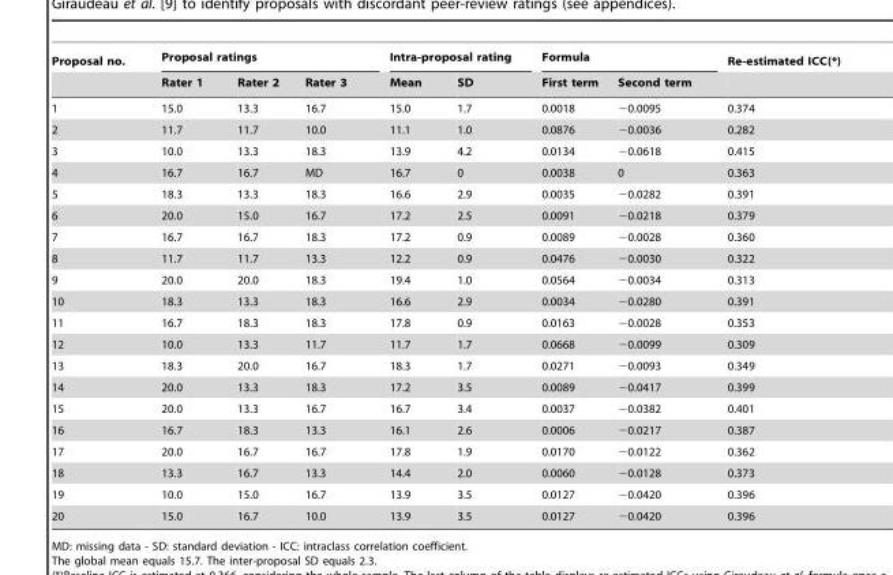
<table><thead><tr><td rowspan="2">Proposal no.</td><td colspan="3">Proposal ratings</td><td colspan="2">Intra-proposal rating</td><td colspan="2">Formula</td><td rowspan="2">Re-estimated ICC(*)</td></tr><tr><td>Rater 1</td><td>Rater 2</td><td>Rater 3</td><td>Mean</td><td>SD</td><td>First term</td><td>Second term</td></tr></thead><tbody><tr><td>1</td><td>15.0</td><td>13.3</td><td>16.7</td><td>15.0</td><td>1.7</td><td>0.0018</td><td>−0.0095</td><td>0.374</td></tr><tr><td>2</td><td>11.7</td><td>11.7</td><td>10.0</td><td>11.1</td><td>1.0</td><td>0.0876</td><td>−0.0036</td><td>0.282</td></tr><tr><td>3</td><td>10.0</td><td>13.3</td><td>18.3</td><td>13.9</td><td>4.2</td><td>0.0134</td><td>−0.0618</td><td>0.415</td></tr><tr><td>4</td><td>16.7</td><td>16.7</td><td>MD</td><td>16.7</td><td>0</td><td>0.0038</td><td>0</td><td>0.363</td></tr><tr><td>5</td><td>18.3</td><td>13.3</td><td>18.3</td><td>16.6</td><td>2.9</td><td>0.0035</td><td>−0.0282</td><td>0.391</td></tr><tr><td>6</td><td>20.0</td><td>15.0</td><td>16.7</td><td>17.2</td><td>2.5</td><td>0.0091</td><td>−0.0218</td><td>0.379</td></tr><tr><td>7</td><td>16.7</td><td>16.7</td><td>18.3</td><td>17.2</td><td>0.9</td><td>0.0089</td><td>−0.0028</td><td>0.360</td></tr><tr><td>8</td><td>11.7</td><td>11.7</td><td>13.3</td><td>12.2</td><td>0.9</td><td>0.0476</td><td>−0.0030</td><td>0.322</td></tr><tr><td>9</td><td>20.0</td><td>20.0</td><td>18.3</td><td>19.4</td><td>1.0</td><td>0.0564</td><td>−0.0034</td><td>0.313</td></tr><tr><td>10</td><td>18.3</td><td>13.3</td><td>18.3</td><td>16.6</td><td>2.9</td><td>0.0034</td><td>−0.0280</td><td>0.391</td></tr><tr><td>11</td><td>16.7</td><td>18.3</td><td>18.3</td><td>17.8</td><td>0.9</td><td>0.0163</td><td>−0.0028</td><td>0.353</td></tr><tr><td>12</td><td>10.0</td><td>13.3</td><td>11.7</td><td>11.7</td><td>1.7</td><td>0.0668</td><td>−0.0099</td><td>0.309</td></tr><tr><td>13</td><td>18.3</td><td>20.0</td><td>16.7</td><td>18.3</td><td>1.7</td><td>0.0271</td><td>−0.0093</td><td>0.349</td></tr><tr><td>14</td><td>20.0</td><td>13.3</td><td>18.3</td><td>17.2</td><td>3.5</td><td>0.0089</td><td>−0.0417</td><td>0.399</td></tr><tr><td>15</td><td>20.0</td><td>13.3</td><td>16.7</td><td>16.7</td><td>3.4</td><td>0.0037</td><td>−0.0382</td><td>0.401</td></tr><tr><td>16</td><td>16.7</td><td>18.3</td><td>13.3</td><td>16.1</td><td>2.6</td><td>0.0006</td><td>−0.0217</td><td>0.387</td></tr><tr><td>17</td><td>20.0</td><td>16.7</td><td>16.7</td><td>17.8</td><td>1.9</td><td>0.0170</td><td>−0.0122</td><td>0.362</td></tr><tr><td>18</td><td>13.3</td><td>16.7</td><td>13.3</td><td>14.4</td><td>2.0</td><td>0.0060</td><td>−0.0128</td><td>0.373</td></tr><tr><td>19</td><td>10.0</td><td>15.0</td><td>16.7</td><td>13.9</td><td>3.5</td><td>0.0127</td><td>−0.0420</td><td>0.396</td></tr><tr><td>20</td><td>15.0</td><td>16.7</td><td>10.0</td><td>13.9</td><td>3.5</td><td>0.0127</td><td>−0.0420</td><td>0.396</td></tr></tbody></table>